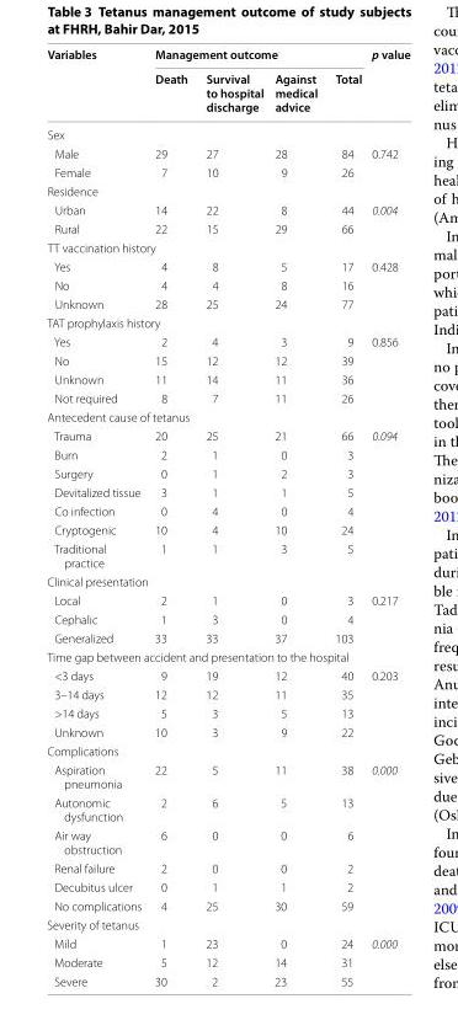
<table><thead><tr><td rowspan="2">Variables</td><td colspan="4">Management outcome</td><td rowspan="2">p value</td></tr><tr><td>Death</td><td>Survival to hospital discharge</td><td>Against medical advice</td><td>Total</td></tr></thead><tbody><tr><td colspan="6">Sex</td></tr><tr><td>Male</td><td>29</td><td>27</td><td>28</td><td>84</td><td rowspan="2">0.742</td></tr><tr><td>Female</td><td>7</td><td>10</td><td>9</td><td>26</td></tr><tr><td colspan="6">Residence</td></tr><tr><td>Urban</td><td>14</td><td>22</td><td>8</td><td>44</td><td rowspan="2">0.004</td></tr><tr><td>Rural</td><td>22</td><td>15</td><td>29</td><td>66</td></tr><tr><td colspan="6">TT vaccination history</td></tr><tr><td>Yes</td><td>4</td><td>8</td><td>5</td><td>17</td><td rowspan="3">0.428</td></tr><tr><td>No</td><td>4</td><td>4</td><td>8</td><td>16</td></tr><tr><td>Unknown</td><td>28</td><td>25</td><td>24</td><td>77</td></tr><tr><td colspan="6">TAT prophylaxis history</td></tr><tr><td>Yes</td><td>2</td><td>4</td><td>3</td><td>9</td><td rowspan="4">0.856</td></tr><tr><td>No</td><td>15</td><td>12</td><td>12</td><td>39</td></tr><tr><td>Unknown</td><td>11</td><td>14</td><td>11</td><td>36</td></tr><tr><td>Not required</td><td>8</td><td>7</td><td>11</td><td>26</td></tr><tr><td colspan="6">Antecedent cause of tetanus</td></tr><tr><td>Trauma</td><td>20</td><td>25</td><td>21</td><td>66</td><td rowspan="7">0.094</td></tr><tr><td>Burn</td><td>2</td><td>1</td><td>0</td><td>3</td></tr><tr><td>Surgery</td><td>0</td><td>1</td><td>2</td><td>3</td></tr><tr><td>Devitalized tissue</td><td>3</td><td>1</td><td>1</td><td>5</td></tr><tr><td>Co infection</td><td>0</td><td>4</td><td>0</td><td>4</td></tr><tr><td>Cryptogenic</td><td>10</td><td>4</td><td>10</td><td>24</td></tr><tr><td>Traditional practice</td><td>1</td><td>1</td><td>3</td><td>5</td></tr><tr><td colspan="6">Clinical presentation</td></tr><tr><td>Local</td><td>2</td><td>1</td><td>0</td><td>3</td><td rowspan="3">0.217</td></tr><tr><td>Cephalic</td><td>1</td><td>3</td><td>0</td><td>4</td></tr><tr><td>Generalized</td><td>33</td><td>33</td><td>37</td><td>103</td></tr><tr><td colspan="6">Time gap between accident and presentation to the hospital</td></tr><tr><td>&lt;3 days</td><td>9</td><td>19</td><td>12</td><td>40</td><td rowspan="4">0.203</td></tr><tr><td>3–14 days</td><td>12</td><td>12</td><td>11</td><td>35</td></tr><tr><td>&gt;14 days</td><td>5</td><td>3</td><td>5</td><td>13</td></tr><tr><td>Unknown</td><td>10</td><td>3</td><td>9</td><td>22</td></tr><tr><td colspan="6">Complications</td></tr><tr><td>Aspiration pneumonia</td><td>22</td><td>5</td><td>11</td><td>38</td><td rowspan="6">0.000</td></tr><tr><td>Autonomic dysfunction</td><td>2</td><td>6</td><td>5</td><td>13</td></tr><tr><td>Air way obstruction</td><td>6</td><td>0</td><td>0</td><td>6</td></tr><tr><td>Renal failure</td><td>2</td><td>0</td><td>0</td><td>2</td></tr><tr><td>Decubitus ulcer</td><td>0</td><td>1</td><td>1</td><td>2</td></tr><tr><td>No complications</td><td>4</td><td>25</td><td>30</td><td>59</td></tr><tr><td colspan="6">Severity of tetanus</td></tr><tr><td>Mild</td><td>1</td><td>23</td><td>0</td><td>24</td><td rowspan="3">0.000</td></tr><tr><td>Moderate</td><td>5</td><td>12</td><td>14</td><td>31</td></tr><tr><td>Severe</td><td>30</td><td>2</td><td>23</td><td>55</td></tr></tbody></table>